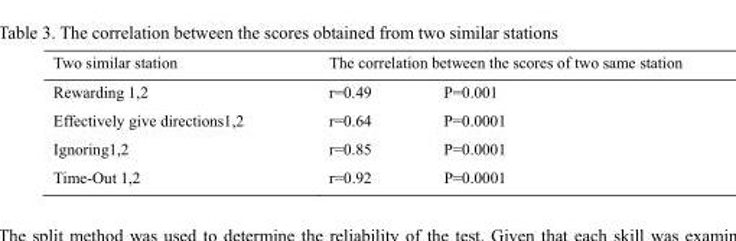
<table><thead><tr><td rowspan="2">Two similar station Rewarding 1,2</td><td colspan="2">The correlation between the scores of two same station</td></tr><tr><td>r=0.49</td><td>P=0.001</td></tr></thead><tbody><tr><td>Effectively give directions1,2</td><td>r=0.64</td><td>P=0.0001</td></tr><tr><td>Ignoring1,2</td><td>r=0.85</td><td>P=0.0001</td></tr><tr><td>Time-Out 1,2</td><td>r=0.92</td><td>P=0.0001</td></tr></tbody></table>